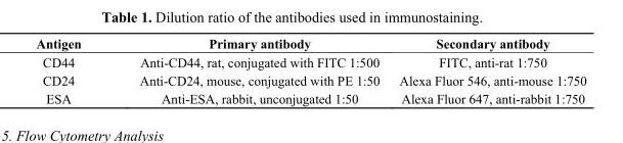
<table><thead><tr><td>Antigen</td><td>Primary antibody</td><td>Secondary antibody</td></tr></thead><tbody><tr><td>CD44</td><td>Anti-CD44, rat, conjugated with FITC 1:500</td><td>FITC, anti-rat 1:750</td></tr><tr><td>CD24</td><td>Anti-CD24, mouse, conjugated with PE 1:50</td><td>Alexa Fluor 546, anti-mouse 1:750</td></tr><tr><td>ESA</td><td>Anti-ESA, rabbit, unconjugated 1:50</td><td>Alexa Fluor 647, anti-rabbit 1:750</td></tr></tbody></table>